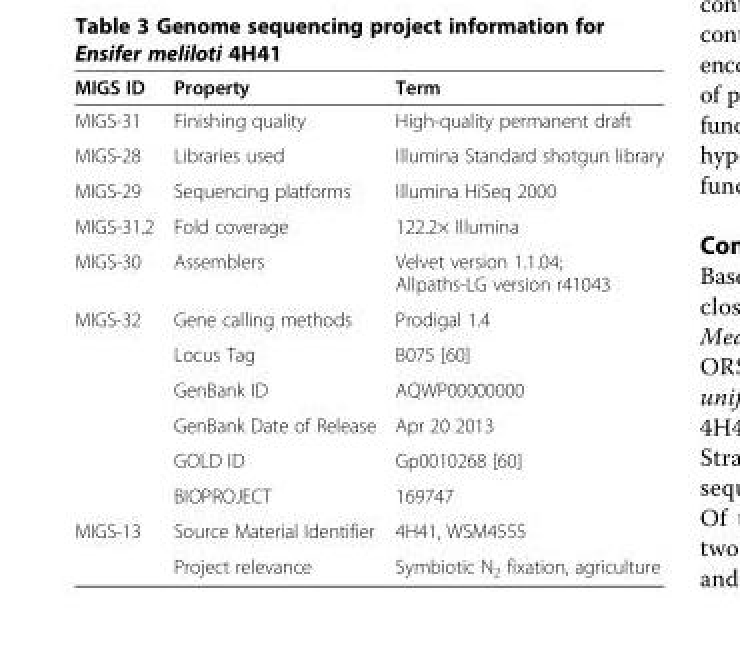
<table><thead><tr><td>MIGS ID</td><td>Property</td><td>Term</td></tr></thead><tbody><tr><td>MIGS-31</td><td>Finishing quality</td><td>High-quality permanent draft</td></tr><tr><td>MIGS-28</td><td>Libraries used</td><td>Illumina Standard shotgun library</td></tr><tr><td>MIGS-29</td><td>Sequencing platforms</td><td>Illumina HiSeq 2000</td></tr><tr><td>MIGS-31.2</td><td>Fold coverage</td><td>122.2× Illumina</td></tr><tr><td>MIGS-30</td><td>Assemblers</td><td>Velvet version 1.1.04; Allpaths-LG version r41043</td></tr><tr><td rowspan="6">MIGS-32</td><td>Gene calling methods</td><td>Prodigal 1.4</td></tr><tr><td>Locus Tag</td><td>B075 [60]</td></tr><tr><td>GenBank ID</td><td>AQWP00000000</td></tr><tr><td>GenBank Date of Release</td><td>Apr 20 2013</td></tr><tr><td>GOLD ID</td><td>Gp0010268 [60]</td></tr><tr><td>BIOPROJECT</td><td>169747</td></tr><tr><td rowspan="2">MIGS-13</td><td>Source Material Identifier</td><td>4H41, WSM4555</td></tr><tr><td>Project relevance</td><td>Symbiotic N<sub>2</sub> fixation, agriculture</td></tr></tbody></table>